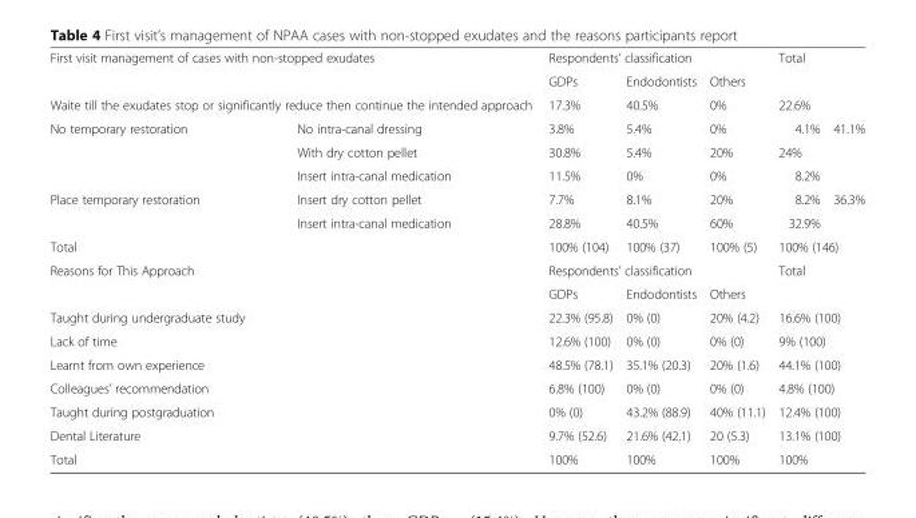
<table><tbody><tr><td rowspan="2" colspan="2">First visit management of cases with non-stopped exudates</td><td colspan="3">Respondents’ classification</td><td rowspan="2" colspan="2">Total</td></tr><tr><td>GDPs</td><td>Endodontists</td><td>Others</td></tr><tr><td colspan="2">Waite till the exudates stop or significantly reduce then continue the intended approach</td><td>17.3%</td><td>40.5%</td><td>0%</td><td colspan="2">22.6%</td></tr><tr><td rowspan="3">No temporary restoration</td><td>No intra-canal dressing</td><td>3.8%</td><td>5.4%</td><td>0%</td><td>4.1%</td><td rowspan="3">41.1%</td></tr><tr><td>With dry cotton pellet</td><td>30.8%</td><td>5.4%</td><td>20%</td><td>24%</td></tr><tr><td>Insert intra-canal medication</td><td>11.5%</td><td>0%</td><td>0%</td><td>8.2%</td></tr><tr><td rowspan="2">Place temporary restoration</td><td>Insert dry cotton pellet</td><td>7.7%</td><td>8.1%</td><td>20%</td><td>8.2%</td><td rowspan="2">36.3%</td></tr><tr><td>Insert intra-canal medication</td><td>28.8%</td><td>40.5%</td><td>60%</td><td>32.9%</td></tr><tr><td colspan="2">Total</td><td>100% (104)</td><td>100% (37)</td><td>100% (5)</td><td colspan="2">100% (146)</td></tr><tr><td rowspan="2" colspan="2">Reasons for This Approach</td><td colspan="3">Respondents’ classification</td><td rowspan="2" colspan="2">Total</td></tr><tr><td>GDPs</td><td>Endodontists</td><td>Others</td></tr><tr><td colspan="2">Taught during undergraduate study</td><td>22.3% (95.8)</td><td>0% (0)</td><td>20% (4.2)</td><td colspan="2">16.6% (100)</td></tr><tr><td colspan="2">Lack of time</td><td>12.6% (100)</td><td>0% (0)</td><td>0% (0)</td><td colspan="2">9% (100)</td></tr><tr><td colspan="2">Learnt from own experience</td><td>48.5% (78.1)</td><td>35.1% (20.3)</td><td>20% (1.6)</td><td colspan="2">44.1% (100)</td></tr><tr><td colspan="2">Colleagues’ recommendation</td><td>6.8% (100)</td><td>0% (0)</td><td>0% (0)</td><td colspan="2">4.8% (100)</td></tr><tr><td colspan="2">Taught during postgraduation</td><td>0% (0)</td><td>43.2% (88.9)</td><td>40% (11.1)</td><td colspan="2">12.4% (100)</td></tr><tr><td colspan="2">Dental Literature</td><td>9.7% (52.6)</td><td>21.6% (42.1)</td><td>20 (5.3)</td><td colspan="2">13.1% (100)</td></tr><tr><td colspan="2">Total</td><td>100%</td><td>100%</td><td>100%</td><td colspan="2">100%</td></tr></tbody></table>